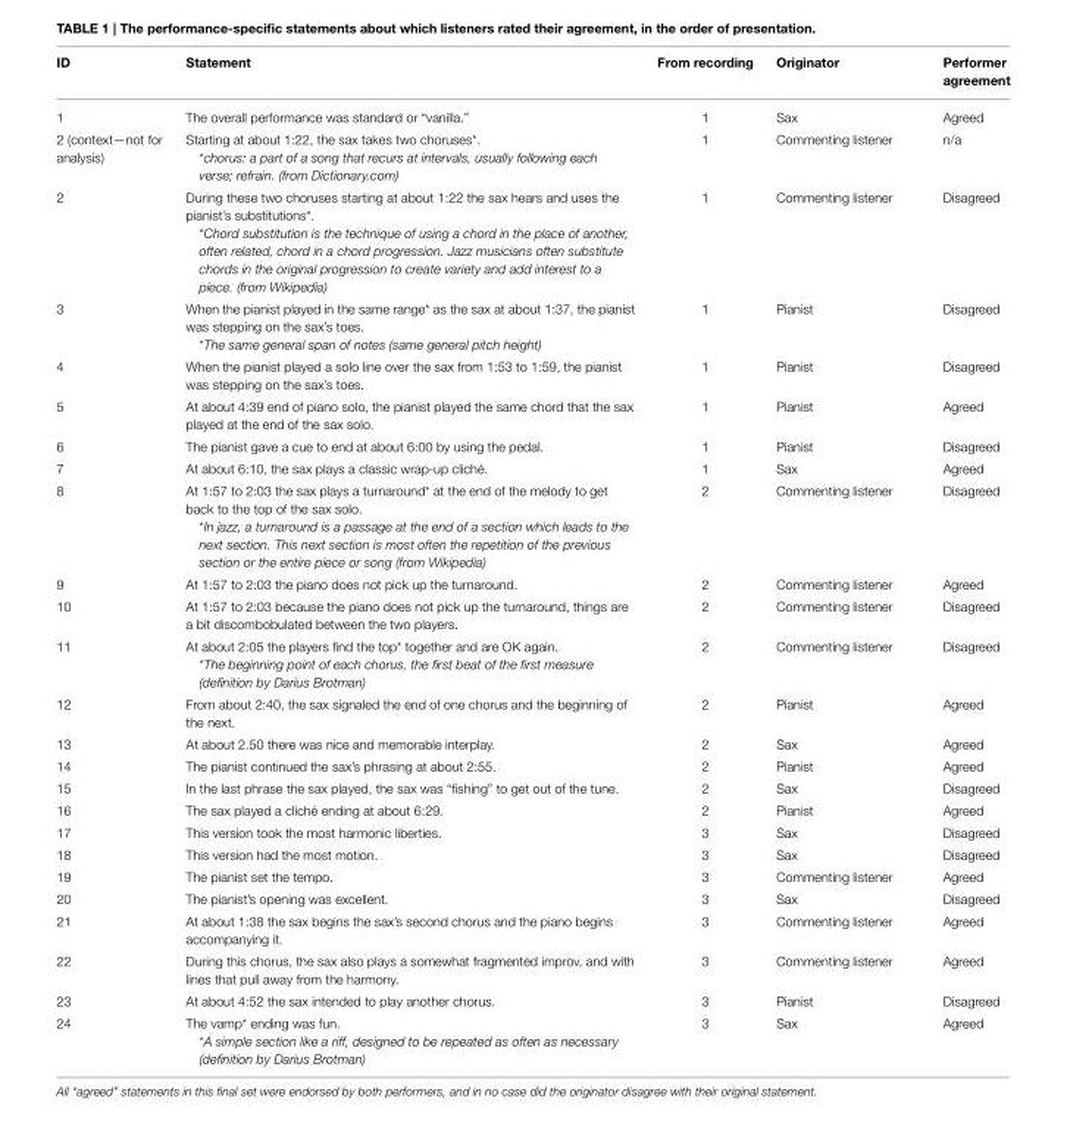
<table><thead><tr><td>ID</td><td>Statement</td><td>From recording</td><td>Originator</td><td>Performer agreement</td></tr></thead><tbody><tr><td>1</td><td>The overall performance was standard or “vanilla.”</td><td>1</td><td>Sax</td><td>Agreed</td></tr><tr><td>2 (context—not for analysis)</td><td>Starting at about 1:22, the sax takes two choruses*. *chorus: a part of a song that recurs at intervals, usually following each verse; refrain. (from Dictionary.com)</td><td>1</td><td>Commenting listener</td><td>n/a</td></tr><tr><td>2</td><td>During these two choruses starting at about 1:22 the sax hears and uses the pianist’s substitutions*. *Chord substitution is the technique of using a chord in the place of another, often related, chord in a chord progression. Jazz musicians often substitute chords in the original progression to create variety and add interest to a piece. (from Wikipedia)</td><td>1</td><td>Commenting listener</td><td>Disagreed</td></tr><tr><td>3</td><td>When the pianist played in the same range* as the sax at about 1:37, the pianist was stepping on the sax’s toes. *The same general span of notes (same general pitch height)</td><td>1</td><td>Pianist</td><td>Disagreed</td></tr><tr><td>4</td><td>When the pianist played a solo line over the sax from 1:53 to 1:59, the pianist was stepping on the sax’s toes.</td><td>1</td><td>Pianist</td><td>Disagreed</td></tr><tr><td>5</td><td>At about 4:39 end of piano solo, the pianist played the same chord that the sax played at the end of the sax solo.</td><td>1</td><td>Pianist</td><td>Agreed</td></tr><tr><td>6</td><td>The pianist gave a cue to end at about 6:00 by using the pedal.</td><td>1</td><td>Pianist</td><td>Disagreed</td></tr><tr><td>7</td><td>At about 6:10, the sax plays a classic wrap-up cliché.</td><td>1</td><td>Sax</td><td>Agreed</td></tr><tr><td>8</td><td>At 1:57 to 2:03 the sax plays a turnaround* at the end of the melody to get back to the top of the sax solo. *In jazz, a turnaround is a passage at the end of a section which leads to the next section. This next section is most often the repetition of the previous section or the entire piece or song (from Wikipedia)</td><td>2</td><td>Commenting listener</td><td>Disagreed</td></tr><tr><td>9</td><td>At 1:57 to 2:03 the piano does not pick up the turnaround.</td><td>2</td><td>Commenting listener</td><td>Agreed</td></tr><tr><td>10</td><td>At 1:57 to 2:03 because the piano does not pick up the turnaround, things are a bit discombobulated between the two players.</td><td>2</td><td>Commenting listener</td><td>Disagreed</td></tr><tr><td>11</td><td>At about 2:05 the players find the top* together and are OK again. *The beginning point of each chorus, the first beat of the first measure (definition by Darius Brotman)</td><td>2</td><td>Commenting listener</td><td>Disagreed</td></tr><tr><td>12</td><td>From about 2:40, the sax signaled the end of one chorus and the beginning of the next.</td><td>2</td><td>Pianist</td><td>Agreed</td></tr><tr><td>13</td><td>At about 2.50 there was nice and memorable interplay.</td><td>2</td><td>Sax</td><td>Agreed</td></tr><tr><td>14</td><td>The pianist continued the sax’s phrasing at about 2:55.</td><td>2</td><td>Pianist</td><td>Agreed</td></tr><tr><td>15</td><td>In the last phrase the sax played, the sax was “fishing” to get out of the tune.</td><td>2</td><td>Sax</td><td>Disagreed</td></tr><tr><td>16</td><td>The sax played a cliché ending at about 6:29.</td><td>2</td><td>Pianist</td><td>Agreed</td></tr><tr><td>17</td><td>This version took the most harmonic liberties.</td><td>3</td><td>Sax</td><td>Disagreed</td></tr><tr><td>18</td><td>This version had the most motion.</td><td>3</td><td>Sax</td><td>Disagreed</td></tr><tr><td>19</td><td>The pianist set the tempo.</td><td>3</td><td>Commenting listener</td><td>Agreed</td></tr><tr><td>20</td><td>The pianist’s opening was excellent.</td><td>3</td><td>Sax</td><td>Disagreed</td></tr><tr><td>21</td><td>At about 1:38 the sax begins the sax’s second chorus and the piano begins accompanying it.</td><td>3</td><td>Commenting listener</td><td>Agreed</td></tr><tr><td>22</td><td>During this chorus, the sax also plays a somewhat fragmented improv, and with lines that pull away from the harmony.</td><td>3</td><td>Commenting listener</td><td>Agreed</td></tr><tr><td>23</td><td>At about 4:52 the sax intended to play another chorus.</td><td>3</td><td>Pianist</td><td>Disagreed</td></tr><tr><td>24</td><td>The vamp* ending was fun. *A simple section like a riff, designed to be repeated as often as necessary (definition by Darius Brotman)</td><td>3</td><td>Sax</td><td>Agreed</td></tr></tbody></table>